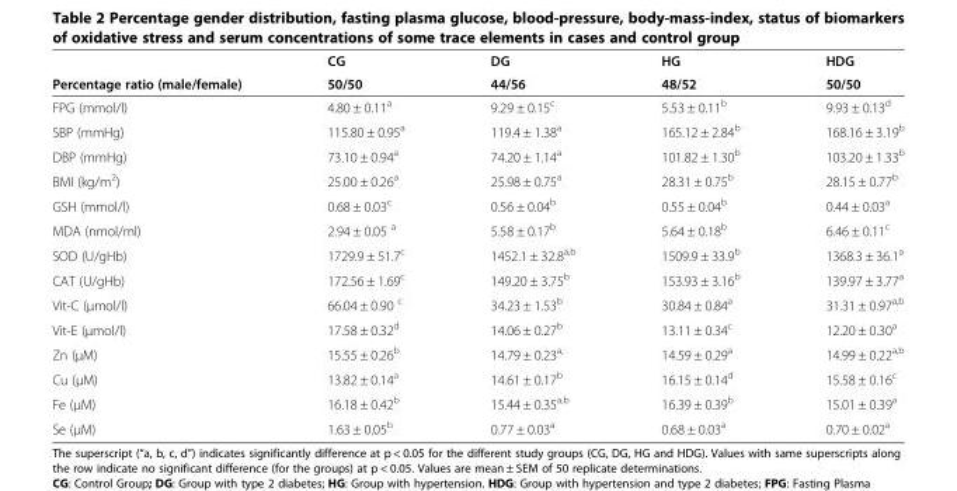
<table><thead><tr><td rowspan="2">Percentage ratio (male/female)</td><td rowspan="2">CG 50/50</td><td rowspan="2">DG 44/56</td><td rowspan="2">HG 48/52</td><td rowspan="2">HDG 50/50</td></tr><tr></tr></thead><tbody><tr><td>FPG (mmol/l)</td><td>4.80 ± 0.11<sup>a</sup></td><td>9.29 ± 0.15<sup>c</sup></td><td>5.53 ± 0.11<sup>b</sup></td><td>9.93 ± 0.13<sup>d</sup></td></tr><tr><td>SBP (mmHg)</td><td>115.80 ± 0.95<sup>a</sup></td><td>119.4 ± 1.38<sup>a</sup></td><td>165.12 ± 2.84<sup>b</sup></td><td>168.16 ± 3.19<sup>b</sup></td></tr><tr><td>DBP (mmHg)</td><td>73.10 ± 0.94<sup>a</sup></td><td>74.20 ± 1.14<sup>a</sup></td><td>101.82 ± 1.30<sup>b</sup></td><td>103.20 ± 1.33<sup>b</sup></td></tr><tr><td>BMI (kg/m<sup>2</sup>)</td><td>25.00 ± 0.26<sup>a</sup></td><td>25.98 ± 0.75<sup>a</sup></td><td>28.31 ± 0.75<sup>b</sup></td><td>28.15 ± 0.77<sup>b</sup></td></tr><tr><td>GSH (mmol/l)</td><td>0.68 ± 0.03<sup>c</sup></td><td>0.56 ± 0.04<sup>b</sup></td><td>0.55 ± 0.04<sup>b</sup></td><td>0.44 ± 0.03<sup>a</sup></td></tr><tr><td>MDA (nmol/ml)</td><td>2.94 ± 0.05 <sup>a</sup></td><td>5.58 ± 0.17<sup>b</sup></td><td>5.64 ± 0.18<sup>b</sup></td><td>6.46 ± 0.11<sup>c</sup></td></tr><tr><td>SOD (U/gHb)</td><td>1729.9 ± 51.7<sup>c</sup></td><td>1452.1 ± 32.8<sup>a,b</sup></td><td>1509.9 ± 33.9<sup>b</sup></td><td>1368.3 ± 36.1<sup>a</sup></td></tr><tr><td>CAT (U/gHb)</td><td>172.56 ± 1.69<sup>c</sup></td><td>149.20 ± 3.75<sup>b</sup></td><td>153.93 ± 3.16<sup>b</sup></td><td>139.97 ± 3.77<sup>a</sup></td></tr><tr><td>Vit-C (μmol/l)</td><td>66.04 ± 0.90 <sup>c</sup></td><td>34.23 ± 1.53<sup>b</sup></td><td>30.84 ± 0.84<sup>a</sup></td><td>31.31 ± 0.97<sup>a,b</sup></td></tr><tr><td>Vit-E (μmol/l)</td><td>17.58 ± 0.32<sup>d</sup></td><td>14.06 ± 0.27<sup>b</sup></td><td>13.11 ± 0.34<sup>c</sup></td><td>12.20 ± 0.30<sup>a</sup></td></tr><tr><td>Zn (μM)</td><td>15.55 ± 0.26<sup>b</sup></td><td>14.79 ± 0.23<sup>a,</sup></td><td>14.59 ± 0.29<sup>a</sup></td><td>14.99 ± 0.22<sup>a,b</sup></td></tr><tr><td>Cu (μM)</td><td>13.82 ± 0.14<sup>a</sup></td><td>14.61 ± 0.17<sup>b</sup></td><td>16.15 ± 0.14<sup>d</sup></td><td>15.58 ± 0.16<sup>c</sup></td></tr><tr><td>Fe (μM)</td><td>16.18 ± 0.42<sup>b</sup></td><td>15.44 ± 0.35<sup>a,b</sup></td><td>16.39 ± 0.39<sup>b</sup></td><td>15.01 ± 0.39<sup>a</sup></td></tr><tr><td>Se (μM)</td><td>1.63 ± 0.05<sup>b</sup></td><td>0.77 ± 0.03<sup>a</sup></td><td>0.68 ± 0.03<sup>a</sup></td><td>0.70 ± 0.02<sup>a</sup></td></tr></tbody></table>